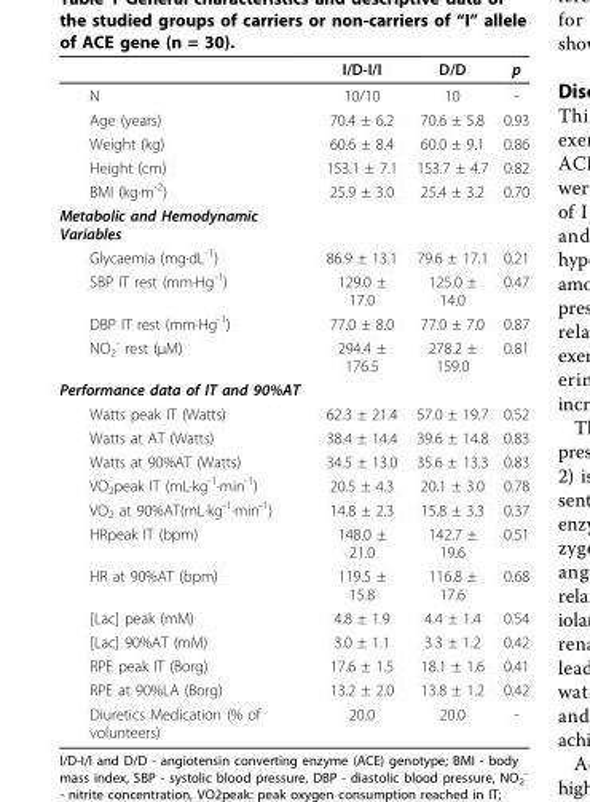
<table><thead><tr><td></td><td>I/D-I/I</td><td>D/D</td><td>p</td></tr></thead><tbody><tr><td>N</td><td>10/10</td><td>10</td><td>-</td></tr><tr><td>Age (years)</td><td>70.4 ± 6.2</td><td>70.6 ± 5.8</td><td>0.93</td></tr><tr><td>Weight (kg)</td><td>60.6 ± 8.4</td><td>60.0 ± 9.1</td><td>0.86</td></tr><tr><td>Height (cm)</td><td>153.1 ± 7.1</td><td>153.7 ± 4.7</td><td>0.82</td></tr><tr><td>BMI (kg·m<sup>-2</sup>)</td><td>25.9 ± 3.0</td><td>25.4 ± 3.2</td><td>0.70</td></tr><tr><td colspan="4">Metabolic and Hemodynamic Variables</td></tr><tr><td>Glycaemia (mg·dL<sup>-1</sup>)</td><td>86.9 ± 13.1</td><td>79.6 ± 17.1</td><td>0.21</td></tr><tr><td>SBP IT rest (mm·Hg<sup>-1</sup>)</td><td>129.0 ± 17.0</td><td>125.0 ± 14.0</td><td>0.47</td></tr><tr><td>DBP IT rest (mm·Hg<sup>-1</sup>)</td><td>77.0 ± 8.0</td><td>77.0 ± 7.0</td><td>0.87</td></tr><tr><td>NO<sub>2</sub> <sup>-</sup> rest (μM)</td><td>294.4 ± 176.5</td><td>278.2 ± 159.0</td><td>0.81</td></tr><tr><td colspan="4">Performance data of IT and 90%AT</td></tr><tr><td>Watts peak IT (Watts)</td><td>62.3 ± 21.4</td><td>57.0 ± 19.7</td><td>0.52</td></tr><tr><td>Watts at AT (Watts)</td><td>38.4 ± 14.4</td><td>39.6 ± 14.8</td><td>0.83</td></tr><tr><td>Watts at 90%AT (Watts)</td><td>34.5 ± 13.0</td><td>35.6 ± 13.3</td><td>0.83</td></tr><tr><td>VO<sub>2</sub>peak IT (mL·kg<sup>-1</sup>·min<sup>-1</sup>)</td><td>20.5 ± 4.3</td><td>20.1 ± 3.0</td><td>0.78</td></tr><tr><td>VO<sub>2</sub> at 90%AT(mL·kg<sup>-1</sup>·min<sup>-1</sup>)</td><td>14.8 ± 2.3</td><td>15.8 ± 3.3</td><td>0.37</td></tr><tr><td>HRpeak IT (bpm)</td><td>148.0 ± 21.0</td><td>142.7 ± 19.6</td><td>0.51</td></tr><tr><td>HR at 90%AT (bpm)</td><td>119.5 ± 15.8</td><td>116.8 ± 17.6</td><td>0.68</td></tr><tr><td>[Lac] peak (mM)</td><td>4.8 ± 1.9</td><td>4.4 ± 1.4</td><td>0.54</td></tr><tr><td>[Lac] 90%AT (mM)</td><td>3.0 ± 1.1</td><td>3.3 ± 1.2</td><td>0.42</td></tr><tr><td>RPE peak IT (Borg)</td><td>17.6 ± 1.5</td><td>18.1 ± 1.6</td><td>0.41</td></tr><tr><td>RPE at 90%LA (Borg)</td><td>13.2 ± 2.0</td><td>13.8 ± 1.2</td><td>0.42</td></tr><tr><td>Diuretics Medication (% of volunteers)</td><td>20.0</td><td>20.0</td><td>-</td></tr></tbody></table>